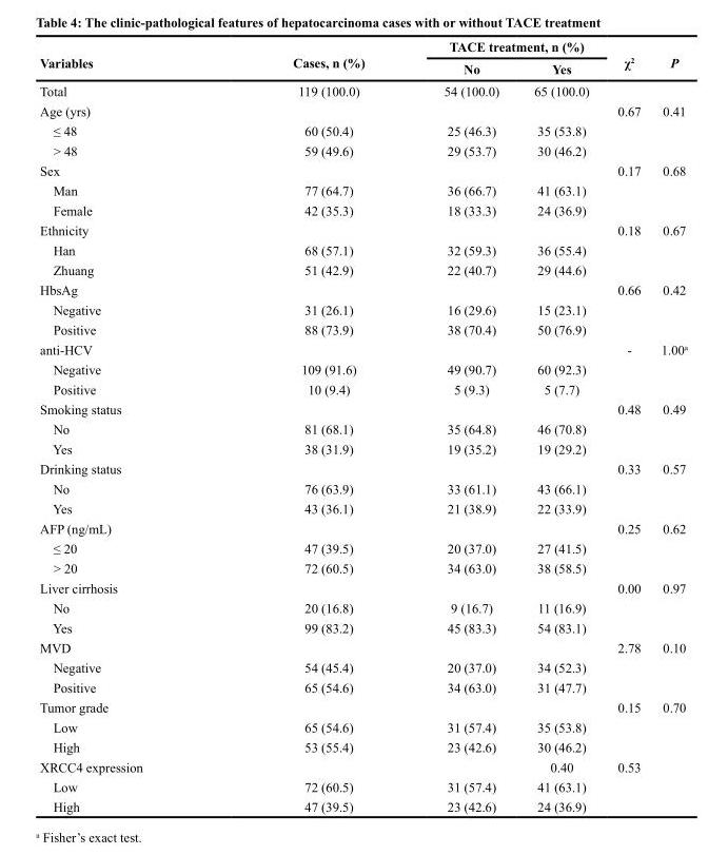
<table><thead><tr><td rowspan="2">Variables</td><td rowspan="2">Cases, n (%)</td><td colspan="2">TACE treatment, n (%)</td><td rowspan="2">χ<sup>2</sup></td><td rowspan="2">P</td></tr><tr><td>No</td><td>Yes</td></tr></thead><tbody><tr><td>Total</td><td>119 (100.0)</td><td>54 (100.0)</td><td>65 (100.0)</td><td></td><td></td></tr><tr><td>Age (yrs)</td><td></td><td></td><td></td><td>0.67</td><td>0.41</td></tr><tr><td>≤ 48</td><td>60 (50.4)</td><td>25 (46.3)</td><td>35 (53.8)</td><td></td><td></td></tr><tr><td>&gt; 48</td><td>59 (49.6)</td><td>29 (53.7)</td><td>30 (46.2)</td><td></td><td></td></tr><tr><td>Sex</td><td></td><td></td><td></td><td>0.17</td><td>0.68</td></tr><tr><td>Man</td><td>77 (64.7)</td><td>36 (66.7)</td><td>41 (63.1)</td><td></td><td></td></tr><tr><td>Female</td><td>42 (35.3)</td><td>18 (33.3)</td><td>24 (36.9)</td><td></td><td></td></tr><tr><td>Ethnicity</td><td></td><td></td><td></td><td>0.18</td><td>0.67</td></tr><tr><td>Han</td><td>68 (57.1)</td><td>32 (59.3)</td><td>36 (55.4)</td><td></td><td></td></tr><tr><td>Zhuang</td><td>51 (42.9)</td><td>22 (40.7)</td><td>29 (44.6)</td><td></td><td></td></tr><tr><td>HbsAg</td><td></td><td></td><td></td><td>0.66</td><td>0.42</td></tr><tr><td>Negative</td><td>31 (26.1)</td><td>16 (29.6)</td><td>15 (23.1)</td><td></td><td></td></tr><tr><td>Positive</td><td>88 (73.9)</td><td>38 (70.4)</td><td>50 (76.9)</td><td></td><td></td></tr><tr><td>anti-HCV</td><td></td><td></td><td></td><td>-</td><td>1.00<sup>a</sup></td></tr><tr><td>Negative</td><td>109 (91.6)</td><td>49 (90.7)</td><td>60 (92.3)</td><td></td><td></td></tr><tr><td>Positive</td><td>10 (9.4)</td><td>5 (9.3)</td><td>5 (7.7)</td><td></td><td></td></tr><tr><td>Smoking status</td><td></td><td></td><td></td><td>0.48</td><td>0.49</td></tr><tr><td>No</td><td>81 (68.1)</td><td>35 (64.8)</td><td>46 (70.8)</td><td></td><td></td></tr><tr><td>Yes</td><td>38 (31.9)</td><td>19 (35.2)</td><td>19 (29.2)</td><td></td><td></td></tr><tr><td>Drinking status</td><td></td><td></td><td></td><td>0.33</td><td>0.57</td></tr><tr><td>No</td><td>76 (63.9)</td><td>33 (61.1)</td><td>43 (66.1)</td><td></td><td></td></tr><tr><td>Yes</td><td>43 (36.1)</td><td>21 (38.9)</td><td>22 (33.9)</td><td></td><td></td></tr><tr><td>AFP (ng/mL)</td><td></td><td></td><td></td><td>0.25</td><td>0.62</td></tr><tr><td>≤ 20</td><td>47 (39.5)</td><td>20 (37.0)</td><td>27 (41.5)</td><td></td><td></td></tr><tr><td>&gt; 20</td><td>72 (60.5)</td><td>34 (63.0)</td><td>38 (58.5)</td><td></td><td></td></tr><tr><td>Liver cirrhosis</td><td></td><td></td><td></td><td>0.00</td><td>0.97</td></tr><tr><td>No</td><td>20 (16.8)</td><td>9 (16.7)</td><td>11 (16.9)</td><td></td><td></td></tr><tr><td>Yes</td><td>99 (83.2)</td><td>45 (83.3)</td><td>54 (83.1)</td><td></td><td></td></tr><tr><td>MVD</td><td></td><td></td><td></td><td>2.78</td><td>0.10</td></tr><tr><td>Negative</td><td>54 (45.4)</td><td>20 (37.0)</td><td>34 (52.3)</td><td></td><td></td></tr><tr><td>Positive</td><td>65 (54.6)</td><td>34 (63.0)</td><td>31 (47.7)</td><td></td><td></td></tr><tr><td>Tumor grade</td><td></td><td></td><td></td><td>0.15</td><td>0.70</td></tr><tr><td>Low</td><td>65 (54.6)</td><td>31 (57.4)</td><td>35 (53.8)</td><td></td><td></td></tr><tr><td>High</td><td>53 (55.4)</td><td>23 (42.6)</td><td>30 (46.2)</td><td></td><td></td></tr><tr><td>XRCC4 expression</td><td></td><td></td><td>0.40</td><td>0.53</td><td></td></tr><tr><td>Low</td><td>72 (60.5)</td><td>31 (57.4)</td><td>41 (63.1)</td><td></td><td></td></tr><tr><td>High</td><td>47 (39.5)</td><td>23 (42.6)</td><td>24 (36.9)</td><td></td><td></td></tr></tbody></table>